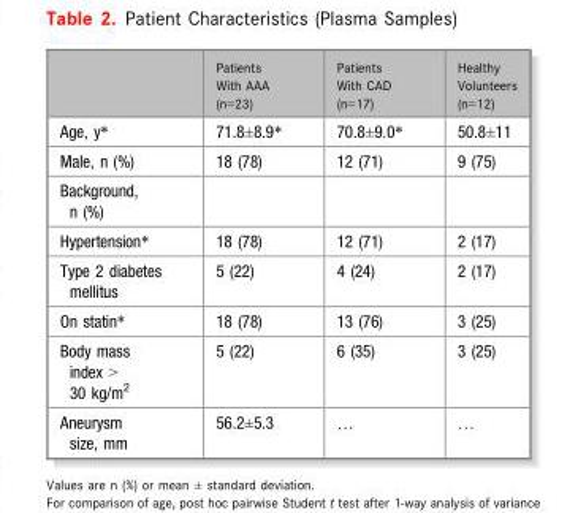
<table><thead><tr><td></td><td>Patients With AAA (n=23)</td><td>Patients With CAD (n=17)</td><td>Healthy Volunteers (n=12)</td></tr></thead><tbody><tr><td>Age, y*</td><td>71.8±8.9*</td><td>70.8±9.0*</td><td>50.8±11</td></tr><tr><td>Male, n (%)</td><td>18 (78)</td><td>12 (71)</td><td>9 (75)</td></tr><tr><td colspan="4">Background, n (%)</td></tr><tr><td>Hypertension*</td><td>18 (78)</td><td>12 (71)</td><td>2 (17)</td></tr><tr><td>Type 2 diabetes mellitus</td><td>5 (22)</td><td>4 (24)</td><td>2 (17)</td></tr><tr><td>On statin*</td><td>18 (78)</td><td>13 (76)</td><td>3 (25)</td></tr><tr><td>Body mass index &gt; 30 kg/m<sup>2</sup></td><td>5 (22)</td><td>6 (35)</td><td>3 (25)</td></tr><tr><td>Aneurysm size, mm</td><td>56.2±5.3</td><td>…</td><td>…</td></tr></tbody></table>